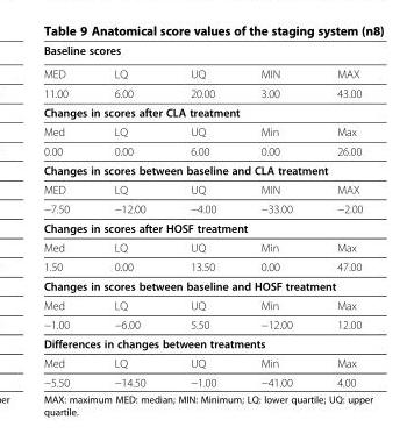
<table><thead><tr><td colspan="5">Baseline scores</td></tr><tr><td>MED</td><td>LQ</td><td>UQ</td><td>MIN</td><td>MAX</td></tr></thead><tbody><tr><td>11.00</td><td>6.00</td><td>20.00</td><td>3.00</td><td>43.00</td></tr><tr><td colspan="5">Changes in scores after CLA treatment</td></tr><tr><td>Med</td><td>LQ</td><td>UQ</td><td>Min</td><td>Max</td></tr><tr><td>0.00</td><td>0.00</td><td>6.00</td><td>0.00</td><td>26.00</td></tr><tr><td colspan="5">Changes in scores between baseline and CLA treatment</td></tr><tr><td>MED</td><td>LQ</td><td>UQ</td><td>MIN</td><td>MAX</td></tr><tr><td>−7.50</td><td>−12.00</td><td>−4.00</td><td>−33.00</td><td>−2.00</td></tr><tr><td colspan="5">Changes in scores after HOSF treatment</td></tr><tr><td>Med</td><td>LQ</td><td>UQ</td><td>Min</td><td>Max</td></tr><tr><td>1.50</td><td>0.00</td><td>13.50</td><td>0.00</td><td>47.00</td></tr><tr><td colspan="5">Changes in scores between baseline and HOSF treatment</td></tr><tr><td>Med</td><td>LQ</td><td>UQ</td><td>Min</td><td>Max</td></tr><tr><td>−1.00</td><td>−6.00</td><td>5.50</td><td>−12.00</td><td>12.00</td></tr><tr><td colspan="5">Differences in changes between treatments</td></tr><tr><td>Med</td><td>LQ</td><td>UQ</td><td>Min</td><td>Max</td></tr><tr><td>−5.50</td><td>−14.50</td><td>−1.00</td><td>−41.00</td><td>4.00</td></tr></tbody></table>